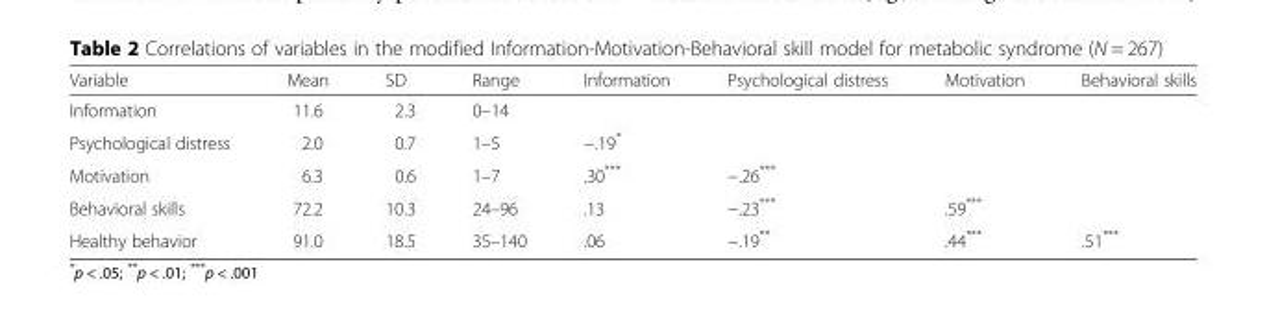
<table><thead><tr><td>Variable</td><td>Mean</td><td>SD</td><td>Range</td><td>Information</td><td>Psychological distress</td><td>Motivation</td><td>Behavioral skills</td></tr></thead><tbody><tr><td>Information</td><td>11.6</td><td>2.3</td><td>0–14</td><td></td><td></td><td></td><td></td></tr><tr><td>Psychological distress</td><td>2.0</td><td>0.7</td><td>1–5</td><td>−.19*</td><td></td><td></td><td></td></tr><tr><td>Motivation</td><td>6.3</td><td>0.6</td><td>1–7</td><td>.30***</td><td>−.26***</td><td></td><td></td></tr><tr><td>Behavioral skills</td><td>72.2</td><td>10.3</td><td>24–96</td><td>.13</td><td>−.23***</td><td>.59***</td><td></td></tr><tr><td>Healthy behavior</td><td>91.0</td><td>18.5</td><td>35–140</td><td>.06</td><td>−.19**</td><td>.44***</td><td>.51***</td></tr></tbody></table>